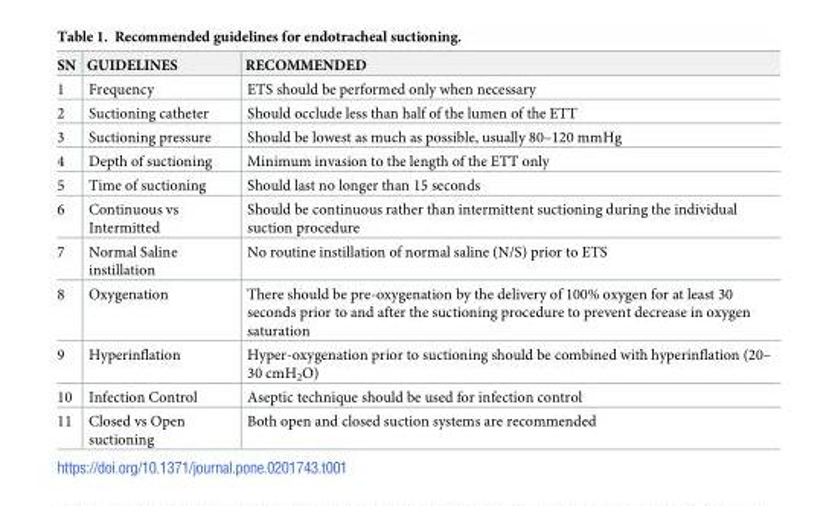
<table><thead><tr><td>SN</td><td>GUIDELINES</td><td>RECOMMENDED</td></tr></thead><tbody><tr><td>1</td><td>Frequency</td><td>ETS should be performed only when necessary</td></tr><tr><td>2</td><td>Suctioning catheter</td><td>Should occlude less than half of the lumen of the ETT</td></tr><tr><td>3</td><td>Suctioning pressure</td><td>Should be lowest as much as possible, usually 80–120 mmHg</td></tr><tr><td>4</td><td>Depth of suctioning</td><td>Minimum invasion to the length of the ETT only</td></tr><tr><td>5</td><td>Time of suctioning</td><td>Should last no longer than 15 seconds</td></tr><tr><td>6</td><td>Continuous vs Intermitted</td><td>Should be continuous rather than intermittent suctioning during the individual suction procedure</td></tr><tr><td>7</td><td>Normal Saline instillation</td><td>No routine instillation of normal saline (N/S) prior to ETS</td></tr><tr><td>8</td><td>Oxygenation</td><td>There should be pre-oxygenation by the delivery of 100% oxygen for at least 30 seconds prior to and after the suctioning procedure to prevent decrease in oxygen saturation</td></tr><tr><td>9</td><td>Hyperinflation</td><td>Hyper-oxygenation prior to suctioning should be combined with hyperinflation (20– 30 cmH<sub>2</sub>O)</td></tr><tr><td>10</td><td>Infection Control</td><td>Aseptic technique should be used for infection control</td></tr><tr><td>11</td><td>Closed vs Open suctioning</td><td>Both open and closed suction systems are recommended</td></tr></tbody></table>